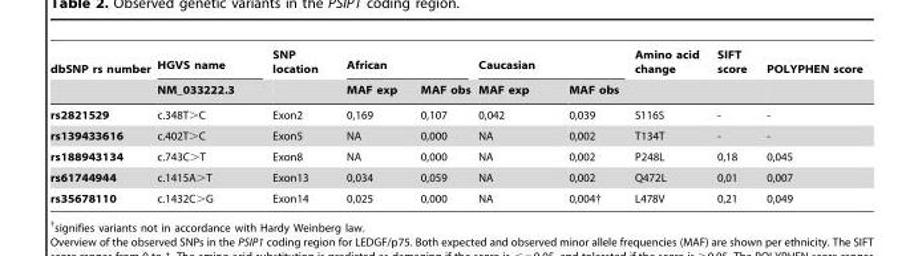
<table><thead><tr><td rowspan="2">dbSNP rs number</td><td rowspan="2">HGVS name NM_033222.3</td><td rowspan="2">SNP location</td><td colspan="2">African</td><td colspan="2">Caucasian</td><td rowspan="2">Amino acid change</td><td rowspan="2">SIFT score</td><td rowspan="2">POLYPHEN score</td></tr><tr><td>MAF exp</td><td>MAF obs</td><td>MAF exp</td><td>MAF obs</td></tr></thead><tbody><tr><td>rs2821529</td><td>c.348T&gt;C</td><td>Exon2</td><td>0,169</td><td>0,107</td><td>0,042</td><td>0,039</td><td>S116S</td><td>-</td><td>-</td></tr><tr><td>rs139433616</td><td>c.402T&gt;C</td><td>Exon5</td><td>NA</td><td>0,000</td><td>NA</td><td>0,002</td><td>T134T</td><td>-</td><td>-</td></tr><tr><td>rs188943134</td><td>c.743C&gt;T</td><td>Exon8</td><td>NA</td><td>0,000</td><td>NA</td><td>0,002</td><td>P248L</td><td>0,18</td><td>0,045</td></tr><tr><td>rs61744944</td><td>c.1415A&gt;T</td><td>Exon13</td><td>0,034</td><td>0,059</td><td>NA</td><td>0,002</td><td>Q472L</td><td>0,01</td><td>0,007</td></tr><tr><td>rs35678110</td><td>c.1432C&gt;G</td><td>Exon14</td><td>0,025</td><td>0,000</td><td>NA</td><td>0,004†</td><td>L478V</td><td>0,21</td><td>0,049</td></tr></tbody></table>